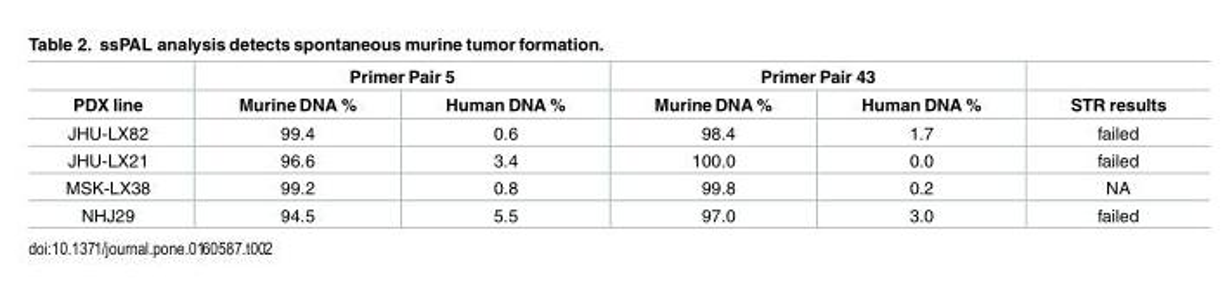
<table><thead><tr><td rowspan="2">PDX line</td><td colspan="2">Primer Pair 5</td><td colspan="2">Primer Pair 43</td><td rowspan="2">STR results</td></tr><tr><td>Murine DNA %</td><td>Human DNA %</td><td>Murine DNA %</td><td>Human DNA %</td></tr></thead><tbody><tr><td>JHU-LX82</td><td>99.4</td><td>0.6</td><td>98.4</td><td>1.7</td><td>failed</td></tr><tr><td>JHU-LX21</td><td>96.6</td><td>3.4</td><td>100.0</td><td>0.0</td><td>failed</td></tr><tr><td>MSK-LX38</td><td>99.2</td><td>0.8</td><td>99.8</td><td>0.2</td><td>NA</td></tr><tr><td>NHJ29</td><td>94.5</td><td>5.5</td><td>97.0</td><td>3.0</td><td>failed</td></tr></tbody></table>